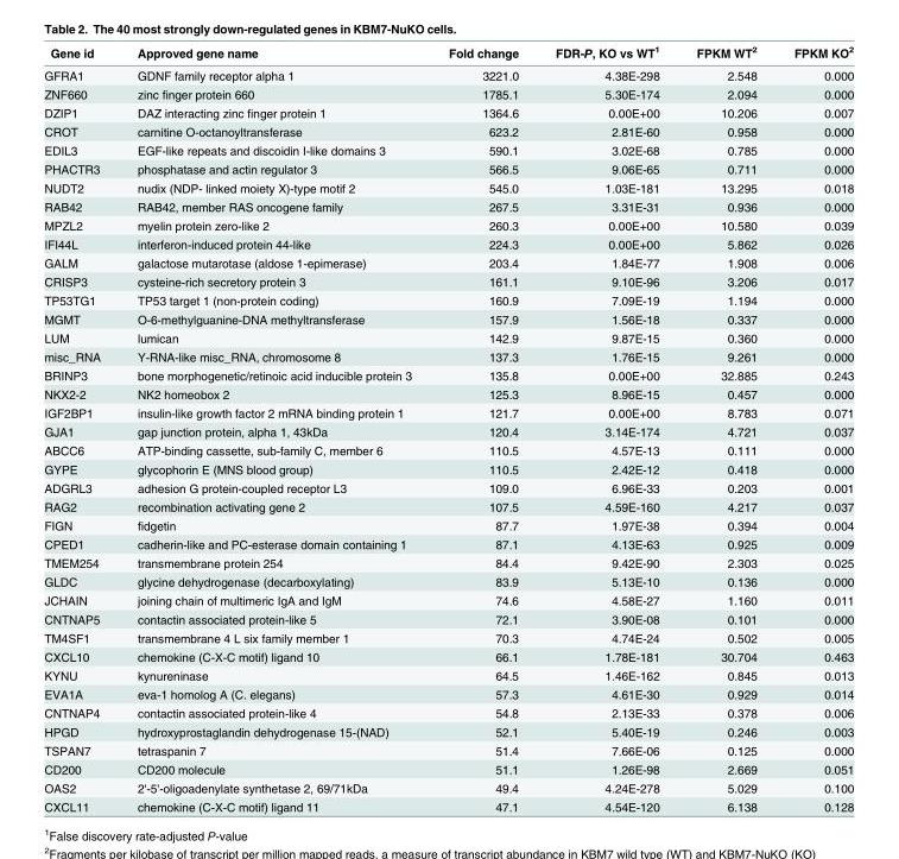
<table><thead><tr><td>Gene id</td><td>Approved gene name</td><td>Fold change</td><td>FDR-P, KO vs WT<sup>1</sup></td><td>FPKM WT<sup>2</sup></td><td>FPKM KO<sup>2</sup></td></tr></thead><tbody><tr><td>GFRA1</td><td>GDNF family receptor alpha 1</td><td>3221.0</td><td>4.38E-298</td><td>2.548</td><td>0.000</td></tr><tr><td>ZNF660</td><td>zinc finger protein 660</td><td>1785.1</td><td>5.30E-174</td><td>2.094</td><td>0.000</td></tr><tr><td>DZIP1</td><td>DAZ interacting zinc finger protein 1</td><td>1364.6</td><td>0.00E+00</td><td>10.206</td><td>0.007</td></tr><tr><td>CROT</td><td>carnitine O-octanoyltransferase</td><td>623.2</td><td>2.81E-60</td><td>0.958</td><td>0.000</td></tr><tr><td>EDIL3</td><td>EGF-like repeats and discoidin I-like domains 3</td><td>590.1</td><td>3.02E-68</td><td>0.785</td><td>0.000</td></tr><tr><td>PHACTR3</td><td>phosphatase and actin regulator 3</td><td>566.5</td><td>9.06E-65</td><td>0.711</td><td>0.000</td></tr><tr><td>NUDT2</td><td>nudix (NDP- linked moiety X)-type motif 2</td><td>545.0</td><td>1.03E-181</td><td>13.295</td><td>0.018</td></tr><tr><td>RAB42</td><td>RAB42, member RAS oncogene family</td><td>267.5</td><td>3.31E-31</td><td>0.936</td><td>0.000</td></tr><tr><td>MPZL2</td><td>myelin protein zero-like 2</td><td>260.3</td><td>0.00E+00</td><td>10.580</td><td>0.039</td></tr><tr><td>IFI44L</td><td>interferon-induced protein 44-like</td><td>224.3</td><td>0.00E+00</td><td>5.862</td><td>0.026</td></tr><tr><td>GALM</td><td>galactose mutarotase (aldose 1-epimerase)</td><td>203.4</td><td>1.84E-77</td><td>1.908</td><td>0.006</td></tr><tr><td>CRISP3</td><td>cysteine-rich secretory protein 3</td><td>161.1</td><td>9.10E-96</td><td>3.206</td><td>0.017</td></tr><tr><td>TP53TG1</td><td>TP53 target 1 (non-protein coding)</td><td>160.9</td><td>7.09E-19</td><td>1.194</td><td>0.000</td></tr><tr><td>MGMT</td><td>O-6-methylguanine-DNA methyltransferase</td><td>157.9</td><td>1.56E-18</td><td>0.337</td><td>0.000</td></tr><tr><td>LUM</td><td>lumican</td><td>142.9</td><td>9.87E-15</td><td>0.360</td><td>0.000</td></tr><tr><td>misc_RNA</td><td>Y-RNA-like misc_RNA, chromosome 8</td><td>137.3</td><td>1.76E-15</td><td>9.261</td><td>0.000</td></tr><tr><td>BRINP3</td><td>bone morphogenetic/retinoic acid inducible protein 3</td><td>135.8</td><td>0.00E+00</td><td>32.885</td><td>0.243</td></tr><tr><td>NKX2-2</td><td>NK2 homeobox 2</td><td>125.3</td><td>8.96E-15</td><td>0.457</td><td>0.000</td></tr><tr><td>IGF2BP1</td><td>insulin-like growth factor 2 mRNA binding protein 1</td><td>121.7</td><td>0.00E+00</td><td>8.783</td><td>0.071</td></tr><tr><td>GJA1</td><td>gap junction protein, alpha 1, 43kDa</td><td>120.4</td><td>3.14E-174</td><td>4.721</td><td>0.037</td></tr><tr><td>ABCC6</td><td>ATP-binding cassette, sub-family C, member 6</td><td>110.5</td><td>4.57E-13</td><td>0.111</td><td>0.000</td></tr><tr><td>GYPE</td><td>glycophorin E (MNS blood group)</td><td>110.5</td><td>2.42E-12</td><td>0.418</td><td>0.000</td></tr><tr><td>ADGRL3</td><td>adhesion G protein-coupled receptor L3</td><td>109.0</td><td>6.96E-33</td><td>0.203</td><td>0.001</td></tr><tr><td>RAG2</td><td>recombination activating gene 2</td><td>107.5</td><td>4.59E-160</td><td>4.217</td><td>0.037</td></tr><tr><td>FIGN</td><td>fidgetin</td><td>87.7</td><td>1.97E-38</td><td>0.394</td><td>0.004</td></tr><tr><td>CPED1</td><td>cadherin-like and PC-esterase domain containing 1</td><td>87.1</td><td>4.13E-63</td><td>0.925</td><td>0.009</td></tr><tr><td>TMEM254</td><td>transmembrane protein 254</td><td>84.4</td><td>9.42E-90</td><td>2.303</td><td>0.025</td></tr><tr><td>GLDC</td><td>glycine dehydrogenase (decarboxylating)</td><td>83.9</td><td>5.13E-10</td><td>0.136</td><td>0.000</td></tr><tr><td>JCHAIN</td><td>joining chain of multimeric IgA and IgM</td><td>74.6</td><td>4.58E-27</td><td>1.160</td><td>0.011</td></tr><tr><td>CNTNAP5</td><td>contactin associated protein-like 5</td><td>72.1</td><td>3.90E-08</td><td>0.101</td><td>0.000</td></tr><tr><td>TM4SF1</td><td>transmembrane 4 L six family member 1</td><td>70.3</td><td>4.74E-24</td><td>0.502</td><td>0.005</td></tr><tr><td>CXCL10</td><td>chemokine (C-X-C motif) ligand 10</td><td>66.1</td><td>1.78E-181</td><td>30.704</td><td>0.463</td></tr><tr><td>KYNU</td><td>kynureninase</td><td>64.5</td><td>1.46E-162</td><td>0.845</td><td>0.013</td></tr><tr><td>EVA1A</td><td>eva-1 homolog A (C. elegans)</td><td>57.3</td><td>4.61E-30</td><td>0.929</td><td>0.014</td></tr><tr><td>CNTNAP4</td><td>contactin associated protein-like 4</td><td>54.8</td><td>2.13E-33</td><td>0.378</td><td>0.006</td></tr><tr><td>HPGD</td><td>hydroxyprostaglandin dehydrogenase 15-(NAD)</td><td>52.1</td><td>5.40E-19</td><td>0.246</td><td>0.003</td></tr><tr><td>TSPAN7</td><td>tetraspanin 7</td><td>51.4</td><td>7.66E-06</td><td>0.125</td><td>0.000</td></tr><tr><td>CD200</td><td>CD200 molecule</td><td>51.1</td><td>1.26E-98</td><td>2.669</td><td>0.051</td></tr><tr><td>OAS2</td><td>2&#x27;-5&#x27;-oligoadenylate synthetase 2, 69/71kDa</td><td>49.4</td><td>4.24E-278</td><td>5.029</td><td>0.100</td></tr><tr><td>CXCL11</td><td>chemokine (C-X-C motif) ligand 11</td><td>47.1</td><td>4.54E-120</td><td>6.138</td><td>0.128</td></tr></tbody></table>